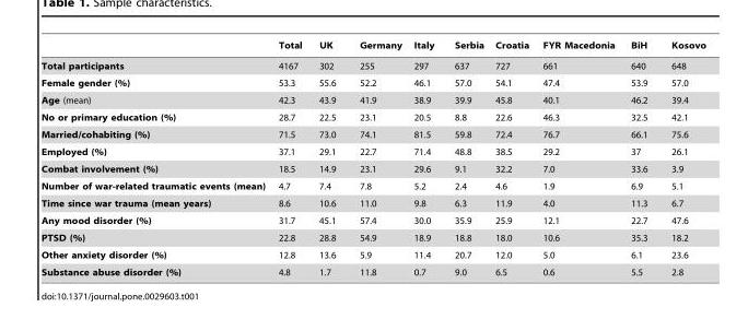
<table><thead><tr><td></td><td>Total</td><td>UK</td><td>Germany</td><td>Italy</td><td>Serbia</td><td>Croatia</td><td>FYR Macedonia</td><td>BiH</td><td>Kosovo</td></tr></thead><tbody><tr><td>Total participants</td><td>4167</td><td>302</td><td>255</td><td>297</td><td>637</td><td>727</td><td>661</td><td>640</td><td>648</td></tr><tr><td>Female gender (%)</td><td>53.3</td><td>55.6</td><td>52.2</td><td>46.1</td><td>57.0</td><td>54.1</td><td>47.4</td><td>53.9</td><td>57.0</td></tr><tr><td>Age (mean)</td><td>42.3</td><td>43.9</td><td>41.9</td><td>38.9</td><td>39.9</td><td>45.8</td><td>40.1</td><td>46.2</td><td>39.4</td></tr><tr><td>No or primary education (%)</td><td>28.7</td><td>22.5</td><td>23.1</td><td>20.5</td><td>8.8</td><td>22.6</td><td>46.3</td><td>32.5</td><td>42.1</td></tr><tr><td>Married/cohabiting (%)</td><td>71.5</td><td>73.0</td><td>74.1</td><td>81.5</td><td>59.8</td><td>72.4</td><td>76.7</td><td>66.1</td><td>75.6</td></tr><tr><td>Employed (%)</td><td>37.1</td><td>29.1</td><td>22.7</td><td>71.4</td><td>48.8</td><td>38.5</td><td>29.2</td><td>37</td><td>26.1</td></tr><tr><td>Combat involvement (%)</td><td>18.5</td><td>14.9</td><td>23.1</td><td>29.6</td><td>9.1</td><td>32.2</td><td>7.0</td><td>33.6</td><td>3.9</td></tr><tr><td>Number of war-related traumatic events (mean)</td><td>4.7</td><td>7.4</td><td>7.8</td><td>5.2</td><td>2.4</td><td>4.6</td><td>1.9</td><td>6.9</td><td>5.1</td></tr><tr><td>Time since war trauma (mean years)</td><td>8.6</td><td>10.6</td><td>11.0</td><td>9.8</td><td>6.3</td><td>11.9</td><td>4.0</td><td>11.3</td><td>6.7</td></tr><tr><td>Any mood disorder (%)</td><td>31.7</td><td>45.1</td><td>57.4</td><td>30.0</td><td>35.9</td><td>25.9</td><td>12.1</td><td>22.7</td><td>47.6</td></tr><tr><td>PTSD (%)</td><td>22.8</td><td>28.8</td><td>54.9</td><td>18.9</td><td>18.8</td><td>18.0</td><td>10.6</td><td>35.3</td><td>18.2</td></tr><tr><td>Other anxiety disorder (%)</td><td>12.8</td><td>13.6</td><td>5.9</td><td>11.4</td><td>20.7</td><td>12.0</td><td>5.0</td><td>6.1</td><td>23.6</td></tr><tr><td>Substance abuse disorder (%)</td><td>4.8</td><td>1.7</td><td>11.8</td><td>0.7</td><td>9.0</td><td>6.5</td><td>0.6</td><td>5.5</td><td>2.8</td></tr></tbody></table>